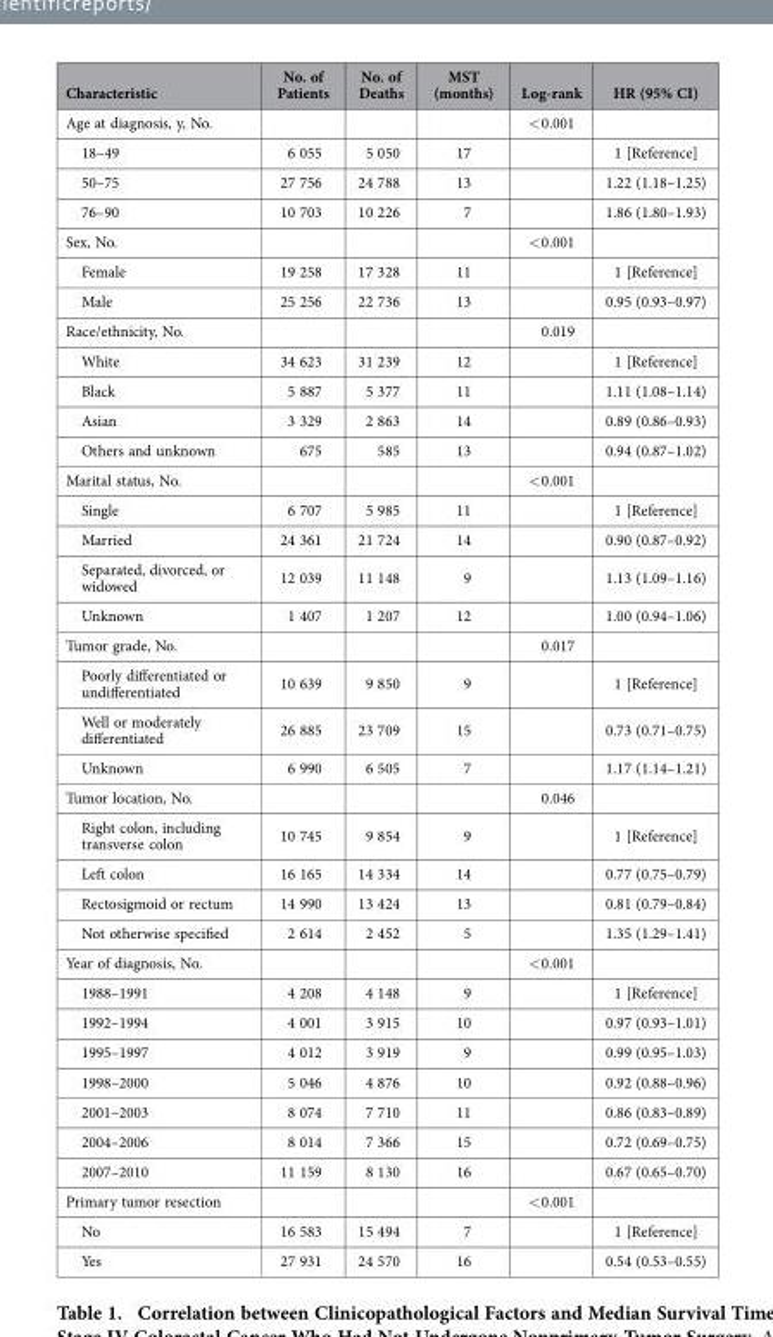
<table><thead><tr><td>Characteristic</td><td>No. of Patients</td><td>No. of Deaths</td><td>MST (months)</td><td>Log-rank</td><td>HR (95% CI)</td></tr></thead><tbody><tr><td>Age at diagnosis, y, No.</td><td></td><td></td><td></td><td>&lt; 0.001</td><td></td></tr><tr><td>18–49</td><td>6 055</td><td>5 050</td><td>17</td><td></td><td>1 [Reference]</td></tr><tr><td>50–75</td><td>27 756</td><td>24 788</td><td>13</td><td></td><td>1.22 (1.18–1.25)</td></tr><tr><td>76–90</td><td>10 703</td><td>10 226</td><td>7</td><td></td><td>1.86 (1.80–1.93)</td></tr><tr><td>Sex, No.</td><td></td><td></td><td></td><td>&lt; 0.001</td><td></td></tr><tr><td>Female</td><td>19 258</td><td>17 328</td><td>11</td><td></td><td>1 [Reference]</td></tr><tr><td>Male</td><td>25 256</td><td>22 736</td><td>13</td><td></td><td>0.95 (0.93–0.97)</td></tr><tr><td>Race/ethnicity, No.</td><td></td><td></td><td></td><td>0.019</td><td></td></tr><tr><td>White</td><td>34 623</td><td>31 239</td><td>12</td><td></td><td>1 [Reference]</td></tr><tr><td>Black</td><td>5 887</td><td>5 377</td><td>11</td><td></td><td>1.11 (1.08–1.14)</td></tr><tr><td>Asian</td><td>3 329</td><td>2 863</td><td>14</td><td></td><td>0.89 (0.86–0.93)</td></tr><tr><td>Others and unknown</td><td>675</td><td>585</td><td>13</td><td></td><td>0.94 (0.87–1.02)</td></tr><tr><td>Marital status, No.</td><td></td><td></td><td></td><td>&lt; 0.001</td><td></td></tr><tr><td>Single</td><td>6 707</td><td>5 985</td><td>11</td><td></td><td>1 [Reference]</td></tr><tr><td>Married</td><td>24 361</td><td>21 724</td><td>14</td><td></td><td>0.90 (0.87–0.92)</td></tr><tr><td>Separated, divorced, or widowed</td><td>12 039</td><td>11 148</td><td>9</td><td></td><td>1.13 (1.09–1.16)</td></tr><tr><td>Unknown</td><td>1 407</td><td>1 207</td><td>12</td><td></td><td>1.00 (0.94–1.06)</td></tr><tr><td>Tumor grade, No.</td><td></td><td></td><td></td><td>0.017</td><td></td></tr><tr><td>Poorly differentiated or undifferentiated</td><td>10 639</td><td>9 850</td><td>9</td><td></td><td>1 [Reference]</td></tr><tr><td>Well or moderately differentiated</td><td>26 885</td><td>23 709</td><td>15</td><td></td><td>0.73 (0.71–0.75)</td></tr><tr><td>Unknown</td><td>6 990</td><td>6 505</td><td>7</td><td></td><td>1.17 (1.14–1.21)</td></tr><tr><td>Tumor location, No.</td><td></td><td></td><td></td><td>0.046</td><td></td></tr><tr><td>Right colon, including transverse colon</td><td>10 745</td><td>9 854</td><td>9</td><td></td><td>1 [Reference]</td></tr><tr><td>Left colon</td><td>16 165</td><td>14 334</td><td>14</td><td></td><td>0.77 (0.75–0.79)</td></tr><tr><td>Rectosigmoid or rectum</td><td>14 990</td><td>13 424</td><td>13</td><td></td><td>0.81 (0.79–0.84)</td></tr><tr><td>Not otherwise specified</td><td>2 614</td><td>2 452</td><td>5</td><td></td><td>1.35 (1.29–1.41)</td></tr><tr><td>Year of diagnosis, No.</td><td></td><td></td><td></td><td>&lt; 0.001</td><td></td></tr><tr><td>1988–1991</td><td>4 208</td><td>4 148</td><td>9</td><td></td><td>1 [Reference]</td></tr><tr><td>1992–1994</td><td>4 001</td><td>3 915</td><td>10</td><td></td><td>0.97 (0.93–1.01)</td></tr><tr><td>1995–1997</td><td>4 012</td><td>3 919</td><td>9</td><td></td><td>0.99 (0.95–1.03)</td></tr><tr><td>1998–2000</td><td>5 046</td><td>4 876</td><td>10</td><td></td><td>0.92 (0.88–0.96)</td></tr><tr><td>2001–2003</td><td>8 074</td><td>7 710</td><td>11</td><td></td><td>0.86 (0.83–0.89)</td></tr><tr><td>2004–2006</td><td>8 014</td><td>7 366</td><td>15</td><td></td><td>0.72 (0.69–0.75)</td></tr><tr><td>2007–2010</td><td>11 159</td><td>8 130</td><td>16</td><td></td><td>0.67 (0.65–0.70)</td></tr><tr><td>Primary tumor resection</td><td></td><td></td><td></td><td>&lt; 0.001</td><td></td></tr><tr><td>No</td><td>16 583</td><td>15 494</td><td>7</td><td></td><td>1 [Reference]</td></tr><tr><td>Yes</td><td>27 931</td><td>24 570</td><td>16</td><td></td><td>0.54 (0.53–0.55)</td></tr></tbody></table>